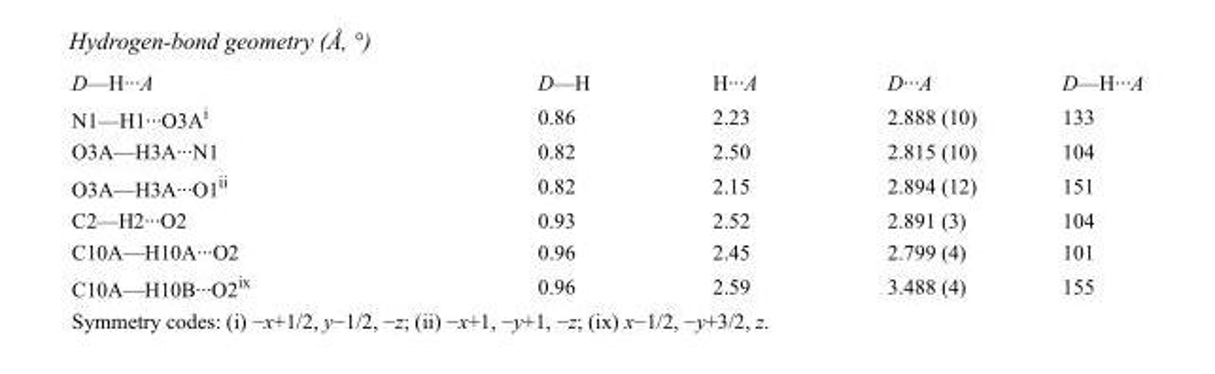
<table><tbody><tr><td>D—H···A</td><td>D—H</td><td>H···A</td><td>D···A</td><td>D—H···A</td></tr><tr><td>N1—H1···O3A<sup>i</sup></td><td>0.86</td><td>2.23</td><td>2.888 (10)</td><td>133</td></tr><tr><td>O3A—H3A···N1</td><td>0.82</td><td>2.50</td><td>2.815 (10)</td><td>104</td></tr><tr><td>O3A—H3A···O1<sup>ii</sup></td><td>0.82</td><td>2.15</td><td>2.894 (12)</td><td>151</td></tr><tr><td>C2—H2···O2</td><td>0.93</td><td>2.52</td><td>2.891 (3)</td><td>104</td></tr><tr><td>C10A—H10A···O2</td><td>0.96</td><td>2.45</td><td>2.799 (4)</td><td>101</td></tr><tr><td>C10A—H10B···O2<sup>ix</sup></td><td>0.96</td><td>2.59</td><td>3.488 (4)</td><td>155</td></tr></tbody></table>